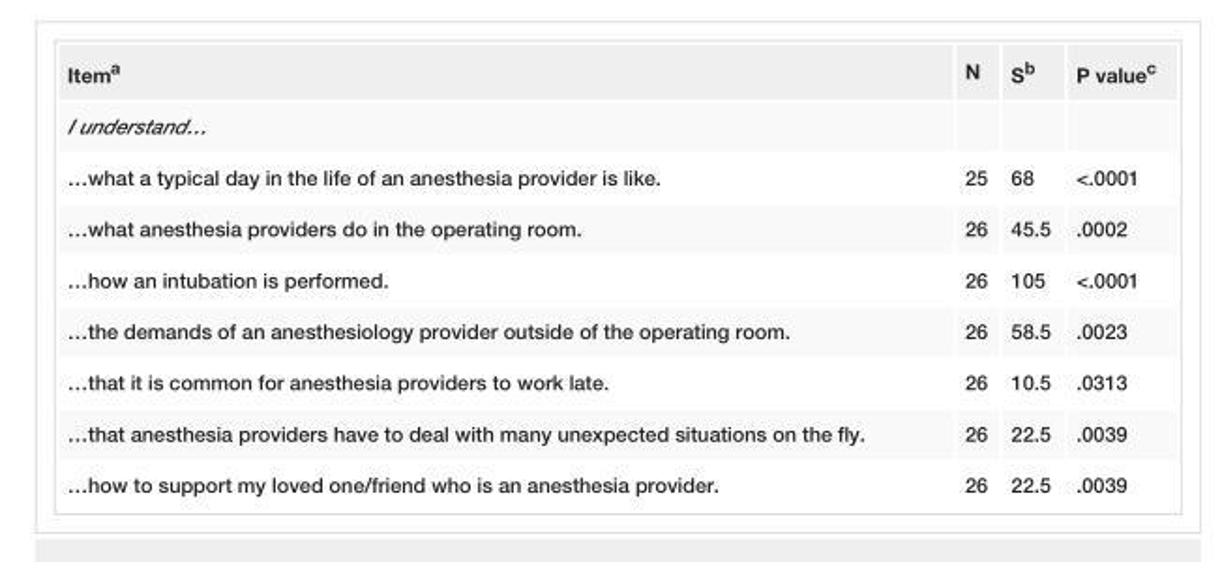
<table><tbody><tr><td>Item<sup>a</sup></td><td>N</td><td>S<sup>b</sup></td><td>P value<sup>c</sup></td></tr><tr><td colspan="4">I understand…</td></tr><tr><td>…what a typical day in the life of an anesthesia provider is like.</td><td>25</td><td>68</td><td>&lt;.0001</td></tr><tr><td>…what anesthesia providers do in the operating room.</td><td>26</td><td>45.5</td><td>.0002</td></tr><tr><td>…how an intubation is performed.</td><td>26</td><td>105</td><td>&lt;.0001</td></tr><tr><td>…the demands of an anesthesiology provider outside of the operating room.</td><td>26</td><td>58.5</td><td>.0023</td></tr><tr><td>…that it is common for anesthesia providers to work late.</td><td>26</td><td>10.5</td><td>.0313</td></tr><tr><td>…that anesthesia providers have to deal with many unexpected situations on the fly.</td><td>26</td><td>22.5</td><td>.0039</td></tr><tr><td>…how to support my loved one/friend who is an anesthesia provider.</td><td>26</td><td>22.5</td><td>.0039</td></tr></tbody></table>